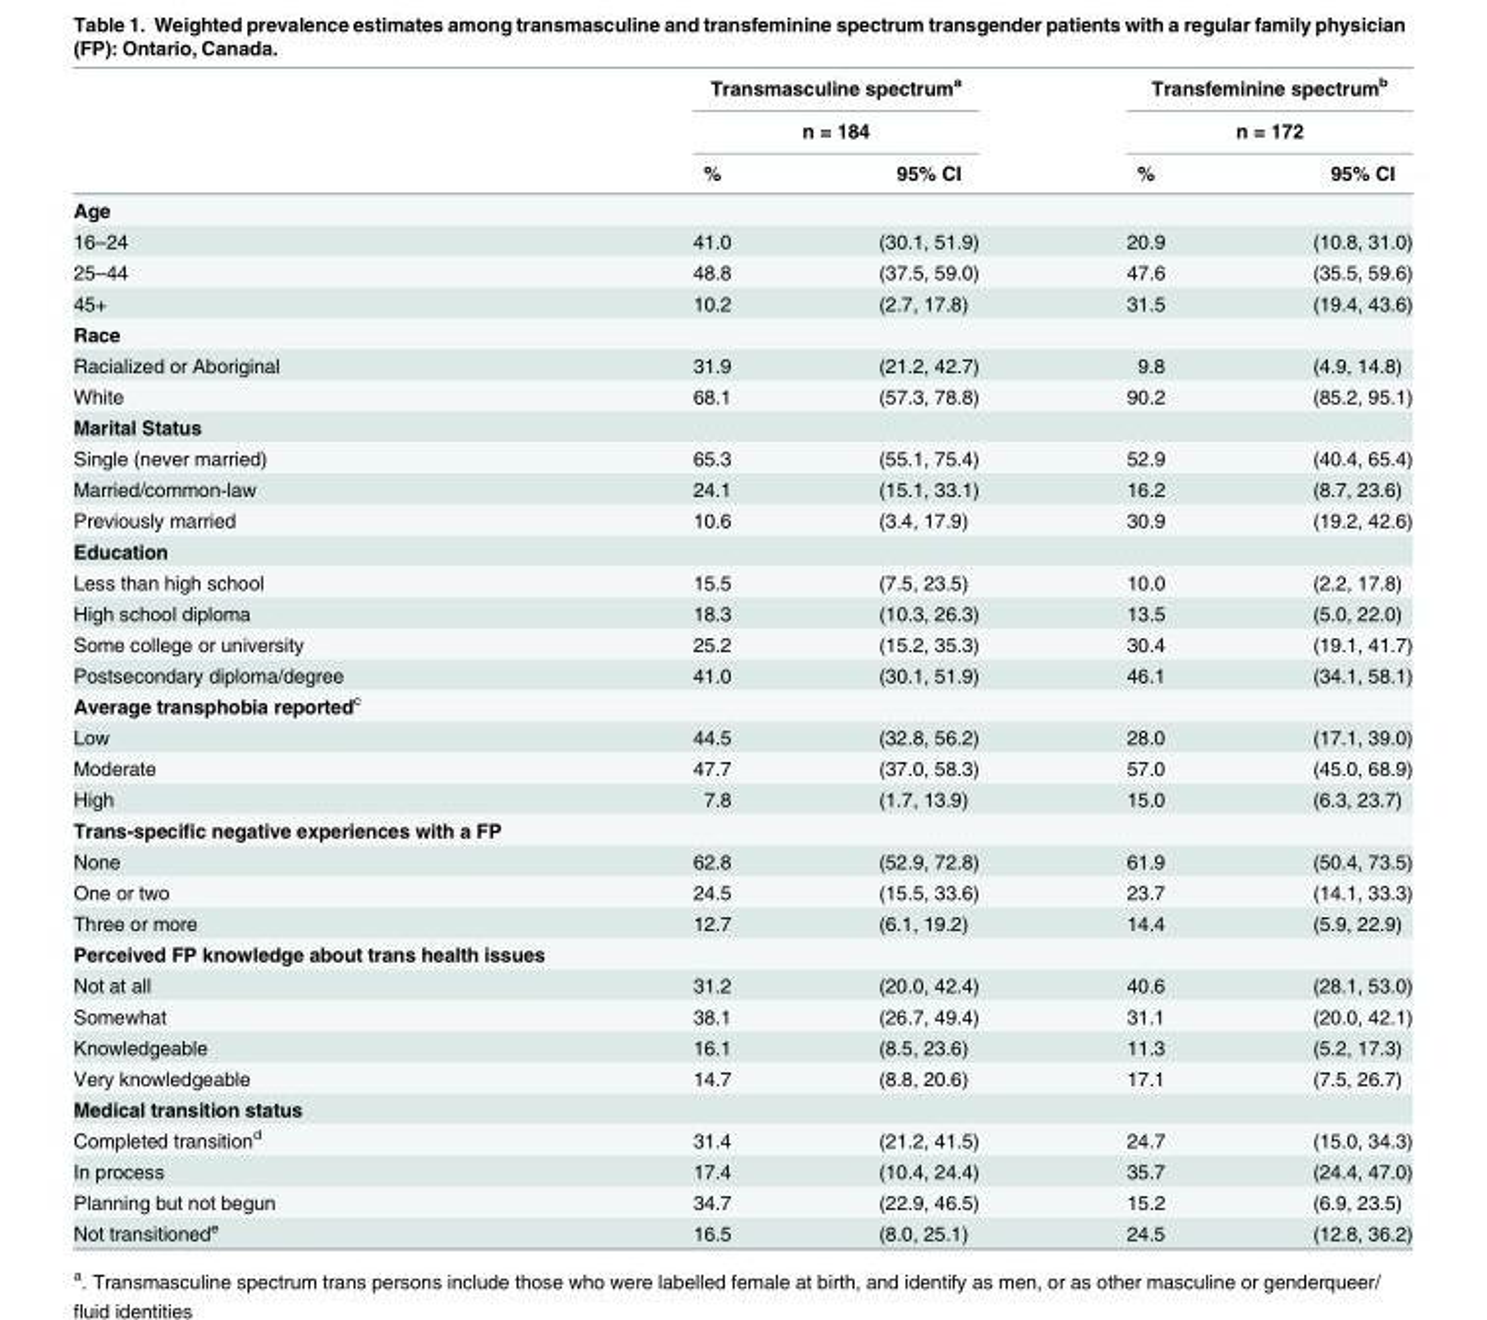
<table><thead><tr><td rowspan="3"></td><td rowspan="2" colspan="2">Transmasculine spectrum<sup>a</sup> n = 184</td><td rowspan="2" colspan="2">Transfeminine spectrum<sup>b</sup> n = 172</td></tr><tr></tr><tr><td>%</td><td>95% CI</td><td>%</td><td>95% CI</td></tr></thead><tbody><tr><td colspan="5">Age</td></tr><tr><td>16–24</td><td>41.0</td><td>(30.1, 51.9)</td><td>20.9</td><td>(10.8, 31.0)</td></tr><tr><td>25–44</td><td>48.8</td><td>(37.5, 59.0)</td><td>47.6</td><td>(35.5, 59.6)</td></tr><tr><td>45+</td><td>10.2</td><td>(2.7, 17.8)</td><td>31.5</td><td>(19.4, 43.6)</td></tr><tr><td colspan="5">Race</td></tr><tr><td>Racialized or Aboriginal</td><td>31.9</td><td>(21.2, 42.7)</td><td>9.8</td><td>(4.9, 14.8)</td></tr><tr><td>White</td><td>68.1</td><td>(57.3, 78.8)</td><td>90.2</td><td>(85.2, 95.1)</td></tr><tr><td colspan="5">Marital Status</td></tr><tr><td>Single (never married)</td><td>65.3</td><td>(55.1, 75.4)</td><td>52.9</td><td>(40.4, 65.4)</td></tr><tr><td>Married/common-law</td><td>24.1</td><td>(15.1, 33.1)</td><td>16.2</td><td>(8.7, 23.6)</td></tr><tr><td>Previously married</td><td>10.6</td><td>(3.4, 17.9)</td><td>30.9</td><td>(19.2, 42.6)</td></tr><tr><td colspan="5">Education</td></tr><tr><td>Less than high school</td><td>15.5</td><td>(7.5, 23.5)</td><td>10.0</td><td>(2.2, 17.8)</td></tr><tr><td>High school diploma</td><td>18.3</td><td>(10.3, 26.3)</td><td>13.5</td><td>(5.0, 22.0)</td></tr><tr><td>Some college or university</td><td>25.2</td><td>(15.2, 35.3)</td><td>30.4</td><td>(19.1, 41.7)</td></tr><tr><td>Postsecondary diploma/degree</td><td>41.0</td><td>(30.1, 51.9)</td><td>46.1</td><td>(34.1, 58.1)</td></tr><tr><td colspan="5">Average transphobia reported<sup>c</sup></td></tr><tr><td>Low</td><td>44.5</td><td>(32.8, 56.2)</td><td>28.0</td><td>(17.1, 39.0)</td></tr><tr><td>Moderate</td><td>47.7</td><td>(37.0, 58.3)</td><td>57.0</td><td>(45.0, 68.9)</td></tr><tr><td>High</td><td>7.8</td><td>(1.7, 13.9)</td><td>15.0</td><td>(6.3, 23.7)</td></tr><tr><td colspan="5">Trans-specific negative experiences with a FP</td></tr><tr><td>None</td><td>62.8</td><td>(52.9, 72.8)</td><td>61.9</td><td>(50.4, 73.5)</td></tr><tr><td>One or two</td><td>24.5</td><td>(15.5, 33.6)</td><td>23.7</td><td>(14.1, 33.3)</td></tr><tr><td>Three or more</td><td>12.7</td><td>(6.1, 19.2)</td><td>14.4</td><td>(5.9, 22.9)</td></tr><tr><td colspan="5">Perceived FP knowledge about trans health issues</td></tr><tr><td>Not at all</td><td>31.2</td><td>(20.0, 42.4)</td><td>40.6</td><td>(28.1, 53.0)</td></tr><tr><td>Somewhat</td><td>38.1</td><td>(26.7, 49.4)</td><td>31.1</td><td>(20.0, 42.1)</td></tr><tr><td>Knowledgeable</td><td>16.1</td><td>(8.5, 23.6)</td><td>11.3</td><td>(5.2, 17.3)</td></tr><tr><td>Very knowledgeable</td><td>14.7</td><td>(8.8, 20.6)</td><td>17.1</td><td>(7.5, 26.7)</td></tr><tr><td colspan="5">Medical transition status</td></tr><tr><td>Completed transition<sup>d</sup></td><td>31.4</td><td>(21.2, 41.5)</td><td>24.7</td><td>(15.0, 34.3)</td></tr><tr><td>In process</td><td>17.4</td><td>(10.4, 24.4)</td><td>35.7</td><td>(24.4, 47.0)</td></tr><tr><td>Planning but not begun</td><td>34.7</td><td>(22.9, 46.5)</td><td>15.2</td><td>(6.9, 23.5)</td></tr><tr><td>Not transitioned<sup>e</sup></td><td>16.5</td><td>(8.0, 25.1)</td><td>24.5</td><td>(12.8, 36.2)</td></tr></tbody></table>